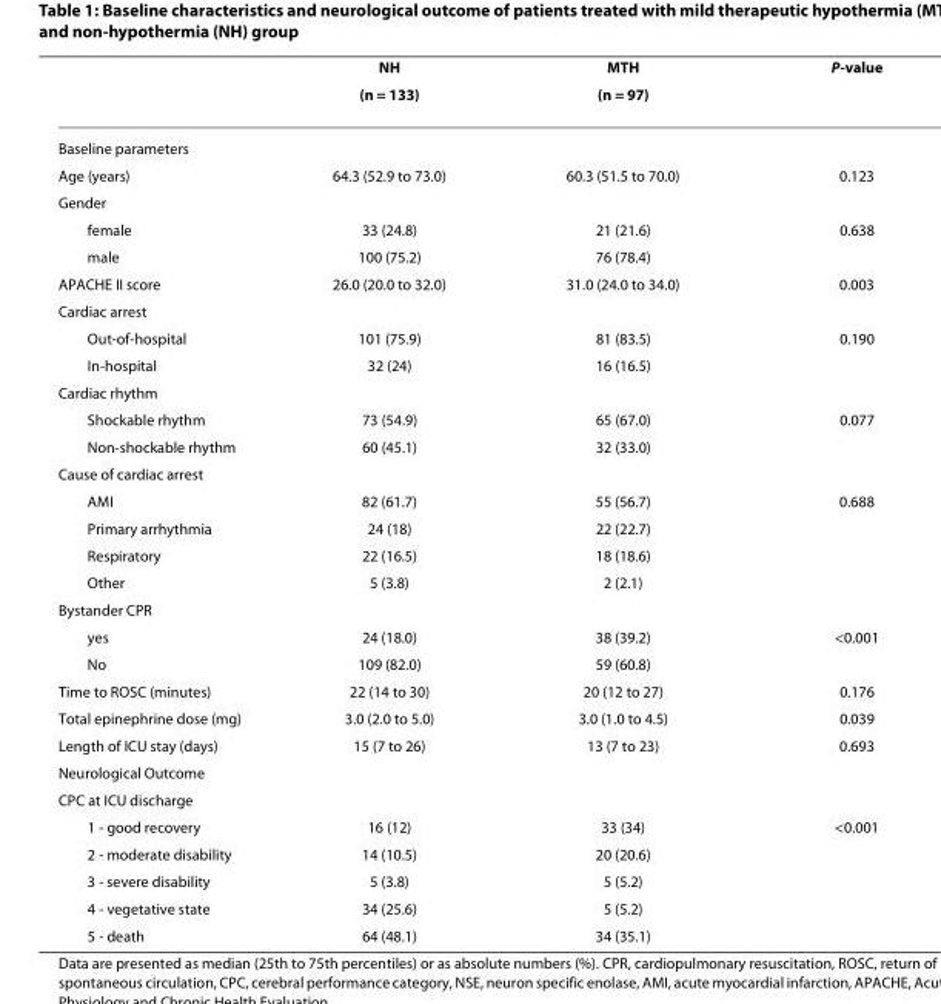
<table><thead><tr><td rowspan="2"></td><td rowspan="2">NH (n = 133)</td><td rowspan="2">MTH (n = 97)</td><td rowspan="2">P-value</td></tr><tr></tr></thead><tbody><tr><td colspan="4">Baseline parameters</td></tr><tr><td>Age (years)</td><td>64.3 (52.9 to 73.0)</td><td>60.3 (51.5 to 70.0)</td><td>0.123</td></tr><tr><td colspan="4">Gender</td></tr><tr><td>female</td><td>33 (24.8)</td><td>21 (21.6)</td><td>0.638</td></tr><tr><td>male</td><td>100 (75.2)</td><td>76 (78.4)</td><td></td></tr><tr><td>APACHE II score</td><td>26.0 (20.0 to 32.0)</td><td>31.0 (24.0 to 34.0)</td><td>0.003</td></tr><tr><td colspan="4">Cardiac arrest</td></tr><tr><td>Out-of-hospital</td><td>101 (75.9)</td><td>81 (83.5)</td><td>0.190</td></tr><tr><td>In-hospital</td><td>32 (24)</td><td>16 (16.5)</td><td></td></tr><tr><td colspan="4">Cardiac rhythm</td></tr><tr><td>Shockable rhythm</td><td>73 (54.9)</td><td>65 (67.0)</td><td>0.077</td></tr><tr><td>Non-shockable rhythm</td><td>60 (45.1)</td><td>32 (33.0)</td><td></td></tr><tr><td colspan="4">Cause of cardiac arrest</td></tr><tr><td>AMI</td><td>82 (61.7)</td><td>55 (56.7)</td><td>0.688</td></tr><tr><td>Primary arrhythmia</td><td>24 (18)</td><td>22 (22.7)</td><td></td></tr><tr><td>Respiratory</td><td>22 (16.5)</td><td>18 (18.6)</td><td></td></tr><tr><td>Other</td><td>5 (3.8)</td><td>2 (2.1)</td><td></td></tr><tr><td colspan="4">Bystander CPR</td></tr><tr><td>yes</td><td>24 (18.0)</td><td>38 (39.2)</td><td>&lt;0.001</td></tr><tr><td>No</td><td>109 (82.0)</td><td>59 (60.8)</td><td></td></tr><tr><td>Time to ROSC (minutes)</td><td>22 (14 to 30)</td><td>20 (12 to 27)</td><td>0.176</td></tr><tr><td>Total epinephrine dose (mg)</td><td>3.0 (2.0 to 5.0)</td><td>3.0 (1.0 to 4.5)</td><td>0.039</td></tr><tr><td>Length of ICU stay (days)</td><td>15 (7 to 26)</td><td>13 (7 to 23)</td><td>0.693</td></tr><tr><td colspan="4">Neurological Outcome</td></tr><tr><td colspan="4">CPC at ICU discharge</td></tr><tr><td>1 - good recovery</td><td>16 (12)</td><td>33 (34)</td><td>&lt;0.001</td></tr><tr><td>2 - moderate disability</td><td>14 (10.5)</td><td>20 (20.6)</td><td></td></tr><tr><td>3 - severe disability</td><td>5 (3.8)</td><td>5 (5.2)</td><td></td></tr><tr><td>4 - vegetative state</td><td>34 (25.6)</td><td>5 (5.2)</td><td></td></tr><tr><td>5 - death</td><td>64 (48.1)</td><td>34 (35.1)</td><td></td></tr></tbody></table>